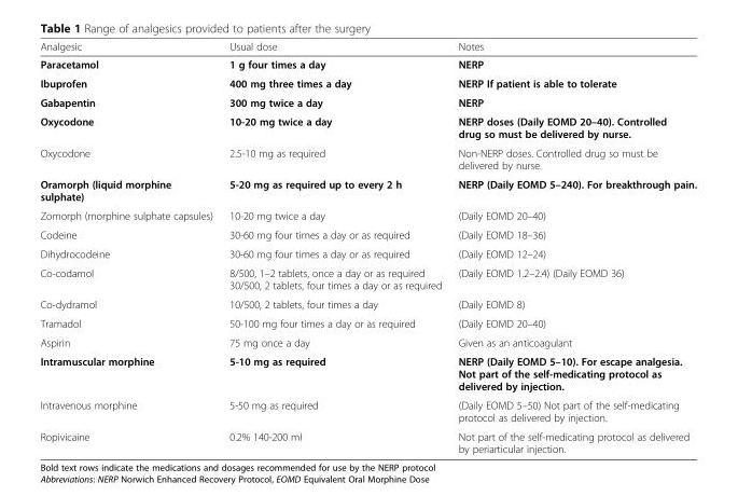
<table><thead><tr><td>Analgesic</td><td>Usual dose</td><td>Notes</td></tr></thead><tbody><tr><td>Paracetamol</td><td>1 g four times a day</td><td>NERP</td></tr><tr><td>Ibuprofen</td><td>400 mg three times a day</td><td>NERP If patient is able to tolerate</td></tr><tr><td>Gabapentin</td><td>300 mg twice a day</td><td>NERP</td></tr><tr><td>Oxycodone</td><td>10-20 mg twice a day</td><td>NERP doses (Daily EOMD 20–40). Controlled drug so must be delivered by nurse.</td></tr><tr><td>Oxycodone</td><td>2.5-10 mg as required</td><td>Non-NERP doses. Controlled drug so must be delivered by nurse.</td></tr><tr><td>Oramorph (liquid morphine sulphate)</td><td>5-20 mg as required up to every 2 h</td><td>NERP (Daily EOMD 5–240). For breakthrough pain.</td></tr><tr><td>Zomorph (morphine sulphate capsules)</td><td>10-20 mg twice a day</td><td>(Daily EOMD 20–40)</td></tr><tr><td>Codeine</td><td>30-60 mg four times a day or as required</td><td>(Daily EOMD 18–36)</td></tr><tr><td>Dihydrocodeine</td><td>30-60 mg four times a day or as required</td><td>(Daily EOMD 12–24)</td></tr><tr><td>Co-codamol</td><td>8/500, 1–2 tablets, once a day or as required 30/500, 2 tablets, four times a day or as required</td><td>(Daily EOMD 1.2–2.4) (Daily EOMD 36)</td></tr><tr><td>Co-dydramol</td><td>10/500, 2 tablets, four times a day</td><td>(Daily EOMD 8)</td></tr><tr><td>Tramadol</td><td>50-100 mg four times a day or as required</td><td>(Daily EOMD 20–40)</td></tr><tr><td>Aspirin</td><td>75 mg once a day</td><td>Given as an anticoagulant</td></tr><tr><td>Intramuscular morphine</td><td>5-10 mg as required</td><td>NERP (Daily EOMD 5–10). For escape analgesia. Not part of the self-medicating protocol as delivered by injection.</td></tr><tr><td>Intravenous morphine</td><td>5-50 mg as required</td><td>(Daily EOMD 5–50) Not part of the self-medicating protocol as delivered by injection.</td></tr><tr><td>Ropivicaine</td><td>0.2% 140-200 ml</td><td>Not part of the self-medicating protocol as delivered by periarticular injection.</td></tr></tbody></table>